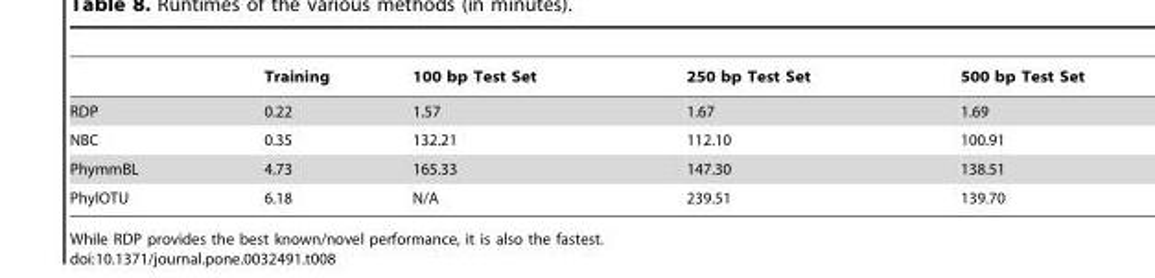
<table><thead><tr><td></td><td>Training</td><td>100 bp Test Set</td><td>250 bp Test Set</td><td>500 bp Test Set</td></tr></thead><tbody><tr><td>RDP</td><td>0.22</td><td>1.57</td><td>1.67</td><td>1.69</td></tr><tr><td>NBC</td><td>0.35</td><td>132.21</td><td>112.10</td><td>100.91</td></tr><tr><td>PhymmBL</td><td>4.73</td><td>165.33</td><td>147.30</td><td>138.51</td></tr><tr><td>PhylOTU</td><td>6.18</td><td>N/A</td><td>239.51</td><td>139.70</td></tr></tbody></table>